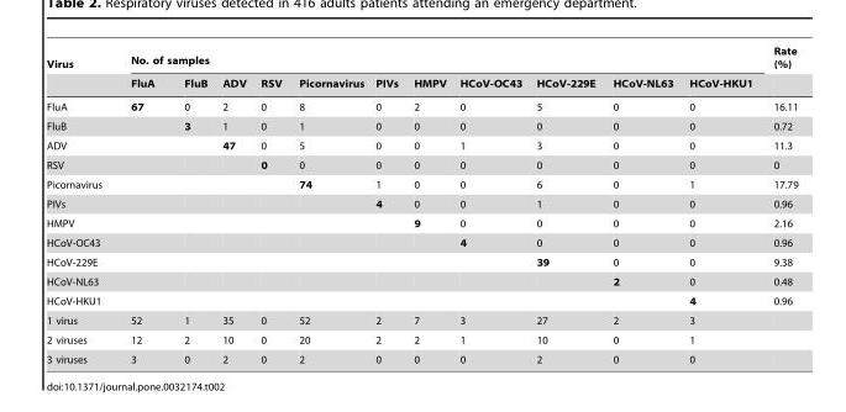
<table><thead><tr><td rowspan="2">Virus</td><td colspan="11">No. of samples</td><td rowspan="2">Rate (%)</td></tr><tr><td>FluA</td><td>FluB</td><td>ADV</td><td>RSV</td><td>Picornavirus</td><td>PIVs</td><td>HMPV</td><td>HCoV-OC43</td><td>HCoV-229E</td><td>HCoV-NL63</td><td>HCoV-HKU1</td></tr></thead><tbody><tr><td>FluA</td><td>67</td><td>0</td><td>2</td><td>0</td><td>8</td><td>0</td><td>2</td><td>0</td><td>5</td><td>0</td><td>0</td><td>16.11</td></tr><tr><td>FluB</td><td></td><td>3</td><td>1</td><td>0</td><td>1</td><td>0</td><td>0</td><td>0</td><td>0</td><td>0</td><td>0</td><td>0.72</td></tr><tr><td>ADV</td><td></td><td></td><td>47</td><td>0</td><td>5</td><td>0</td><td>0</td><td>1</td><td>3</td><td>0</td><td>0</td><td>11.3</td></tr><tr><td>RSV</td><td></td><td></td><td></td><td>0</td><td>0</td><td>0</td><td>0</td><td>0</td><td>0</td><td>0</td><td>0</td><td>0</td></tr><tr><td>Picornavirus</td><td></td><td></td><td></td><td></td><td>74</td><td>1</td><td>0</td><td>0</td><td>6</td><td>0</td><td>1</td><td>17.79</td></tr><tr><td>PIVs</td><td></td><td></td><td></td><td></td><td></td><td>4</td><td>0</td><td>0</td><td>1</td><td>0</td><td>0</td><td>0.96</td></tr><tr><td>HMPV</td><td></td><td></td><td></td><td></td><td></td><td></td><td>9</td><td>0</td><td>0</td><td>0</td><td>0</td><td>2.16</td></tr><tr><td>HCoV-OC43</td><td></td><td></td><td></td><td></td><td></td><td></td><td></td><td>4</td><td>0</td><td>0</td><td>0</td><td>0.96</td></tr><tr><td>HCoV-229E</td><td></td><td></td><td></td><td></td><td></td><td></td><td></td><td></td><td>39</td><td>0</td><td>0</td><td>9.38</td></tr><tr><td>HCoV-NL63</td><td></td><td></td><td></td><td></td><td></td><td></td><td></td><td></td><td></td><td>2</td><td>0</td><td>0.48</td></tr><tr><td>HCoV-HKU1</td><td></td><td></td><td></td><td></td><td></td><td></td><td></td><td></td><td></td><td></td><td>4</td><td>0.96</td></tr><tr><td>1 virus</td><td>52</td><td>1</td><td>35</td><td>0</td><td>52</td><td>2</td><td>7</td><td>3</td><td>27</td><td>2</td><td>3</td><td></td></tr><tr><td>2 viruses</td><td>12</td><td>2</td><td>10</td><td>0</td><td>20</td><td>2</td><td>2</td><td>1</td><td>10</td><td>0</td><td>1</td><td></td></tr><tr><td>3 viruses</td><td>3</td><td>0</td><td>2</td><td>0</td><td>2</td><td>0</td><td>0</td><td>0</td><td>2</td><td>0</td><td>0</td><td></td></tr></tbody></table>